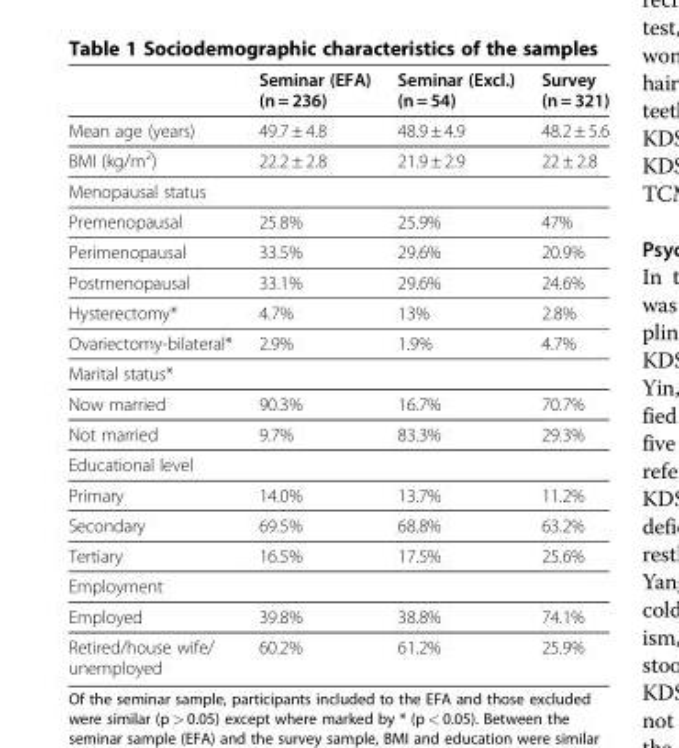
<table><thead><tr><td></td><td>Seminar (EFA) (n = 236)</td><td>Seminar (Excl.) (n = 54)</td><td>Survey (n = 321)</td></tr></thead><tbody><tr><td>Mean age (years)</td><td>49.7 ± 4.8</td><td>48.9 ± 4.9</td><td>48.2 ± 5.6</td></tr><tr><td>BMI (kg/m<sup>2</sup>)</td><td>22.2 ± 2.8</td><td>21.9 ± 2.9</td><td>22 ± 2.8</td></tr><tr><td colspan="4">Menopausal status</td></tr><tr><td>Premenopausal</td><td>25.8%</td><td>25.9%</td><td>47%</td></tr><tr><td>Perimenopausal</td><td>33.5%</td><td>29.6%</td><td>20.9%</td></tr><tr><td>Postmenopausal</td><td>33.1%</td><td>29.6%</td><td>24.6%</td></tr><tr><td>Hysterectomy*</td><td>4.7%</td><td>13%</td><td>2.8%</td></tr><tr><td>Ovariectomy-bilateral*</td><td>2.9%</td><td>1.9%</td><td>4.7%</td></tr><tr><td colspan="4">Marital status*</td></tr><tr><td>Now married</td><td>90.3%</td><td>16.7%</td><td>70.7%</td></tr><tr><td>Not married</td><td>9.7%</td><td>83.3%</td><td>29.3%</td></tr><tr><td colspan="4">Educational level</td></tr><tr><td>Primary</td><td>14.0%</td><td>13.7%</td><td>11.2%</td></tr><tr><td>Secondary</td><td>69.5%</td><td>68.8%</td><td>63.2%</td></tr><tr><td>Tertiary</td><td>16.5%</td><td>17.5%</td><td>25.6%</td></tr><tr><td colspan="4">Employment</td></tr><tr><td>Employed</td><td>39.8%</td><td>38.8%</td><td>74.1%</td></tr><tr><td>Retired/house wife/ unemployed</td><td>60.2%</td><td>61.2%</td><td>25.9%</td></tr></tbody></table>